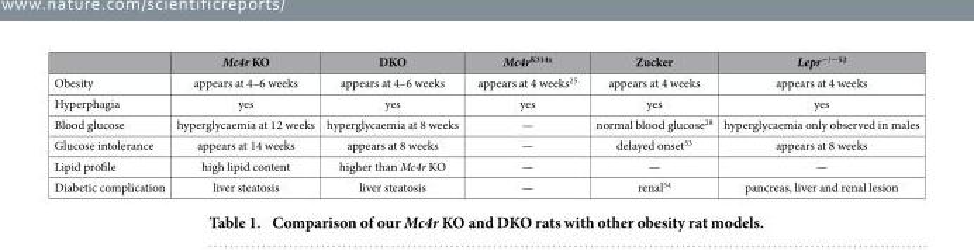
<table><thead><tr><td></td><td>Mc4r KO</td><td>DKO</td><td>Mc4r<sup>K314x</sup></td><td>Zucker</td><td>Lepr<sup>−/−</sup>52</td></tr></thead><tbody><tr><td>Obesity</td><td>appears at 4–6 weeks</td><td>appears at 4–6 weeks</td><td>appears at 4 weeks<sup>25</sup></td><td>appears at 4 weeks</td><td>appears at 4 weeks</td></tr><tr><td>Hyperphagia</td><td>yes</td><td>yes</td><td>yes</td><td>yes</td><td>yes</td></tr><tr><td>Blood glucose</td><td>hyperglycaemia at 12 weeks</td><td>hyperglycaemia at 8 weeks</td><td>—</td><td>normal blood glucose<sup>28</sup></td><td>hyperglycaemia only observed in males</td></tr><tr><td>Glucose intolerance</td><td>appears at 14 weeks</td><td>appears at 8 weeks</td><td>—</td><td>delayed onset<sup>53</sup></td><td>appears at 8 weeks</td></tr><tr><td>Lipid profile</td><td>high lipid content</td><td>higher than Mc4r KO</td><td>—</td><td>—</td><td>—</td></tr><tr><td>Diabetic complication</td><td>liver steatosis</td><td>liver steatosis</td><td>—</td><td>renal<sup>54</sup></td><td>pancreas, liver and renal lesion</td></tr></tbody></table>